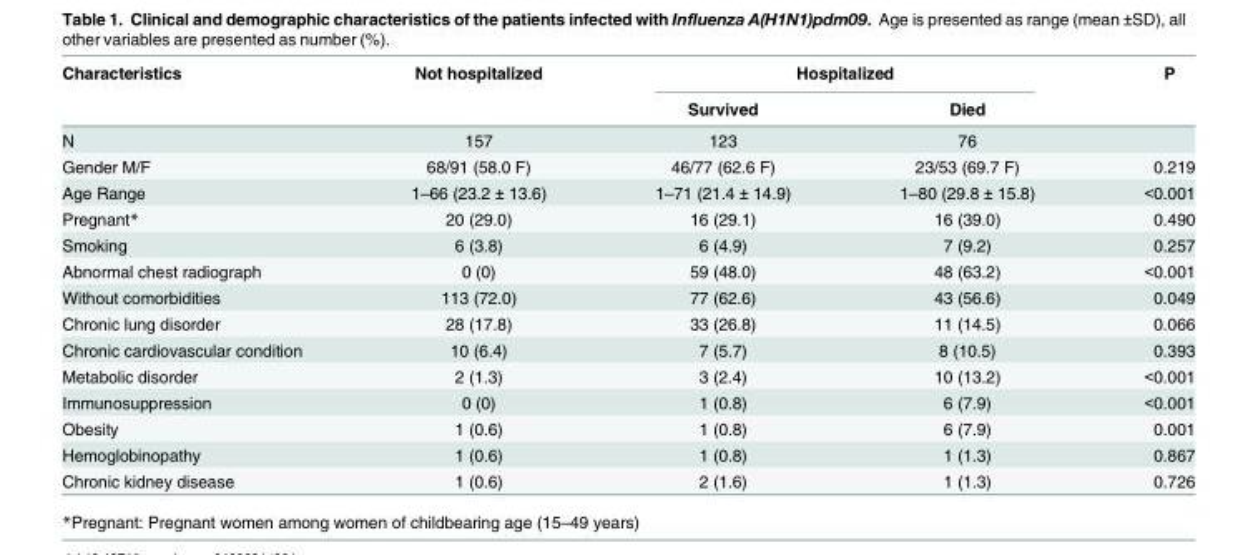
<table><thead><tr><td rowspan="2">Characteristics</td><td rowspan="2">Not hospitalized</td><td colspan="2">Hospitalized</td><td rowspan="2">P</td></tr><tr><td>Survived</td><td>Died</td></tr></thead><tbody><tr><td>N</td><td>157</td><td>123</td><td>76</td><td></td></tr><tr><td>Gender M/F</td><td>68/91 (58.0 F)</td><td>46/77 (62.6 F)</td><td>23/53 (69.7 F)</td><td>0.219</td></tr><tr><td>Age Range</td><td>1–66 (23.2 ± 13.6)</td><td>1–71 (21.4 ± 14.9)</td><td>1–80 (29.8 ± 15.8)</td><td>&lt;0.001</td></tr><tr><td>Pregnant*</td><td>20 (29.0)</td><td>16 (29.1)</td><td>16 (39.0)</td><td>0.490</td></tr><tr><td>Smoking</td><td>6 (3.8)</td><td>6 (4.9)</td><td>7 (9.2)</td><td>0.257</td></tr><tr><td>Abnormal chest radiograph</td><td>0 (0)</td><td>59 (48.0)</td><td>48 (63.2)</td><td>&lt;0.001</td></tr><tr><td>Without comorbidities</td><td>113 (72.0)</td><td>77 (62.6)</td><td>43 (56.6)</td><td>0.049</td></tr><tr><td>Chronic lung disorder</td><td>28 (17.8)</td><td>33 (26.8)</td><td>11 (14.5)</td><td>0.066</td></tr><tr><td>Chronic cardiovascular condition</td><td>10 (6.4)</td><td>7 (5.7)</td><td>8 (10.5)</td><td>0.393</td></tr><tr><td>Metabolic disorder</td><td>2 (1.3)</td><td>3 (2.4)</td><td>10 (13.2)</td><td>&lt;0.001</td></tr><tr><td>Immunosuppression</td><td>0 (0)</td><td>1 (0.8)</td><td>6 (7.9)</td><td>&lt;0.001</td></tr><tr><td>Obesity</td><td>1 (0.6)</td><td>1 (0.8)</td><td>6 (7.9)</td><td>0.001</td></tr><tr><td>Hemoglobinopathy</td><td>1 (0.6)</td><td>1 (0.8)</td><td>1 (1.3)</td><td>0.867</td></tr><tr><td>Chronic kidney disease</td><td>1 (0.6)</td><td>2 (1.6)</td><td>1 (1.3)</td><td>0.726</td></tr></tbody></table>